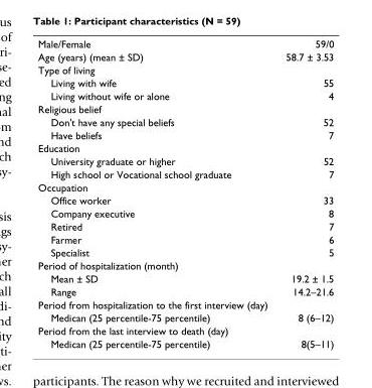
<table><tbody><tr><td>Male/Female</td><td>59/0</td></tr><tr><td>Age (years) (mean ± SD)</td><td>58.7 ± 3.53</td></tr><tr><td colspan="2">Type of living</td></tr><tr><td>Living with wife</td><td>55</td></tr><tr><td>Living without wife or alone</td><td>4</td></tr><tr><td colspan="2">Religious belief</td></tr><tr><td>Don&#x27;t have any special beliefs</td><td>52</td></tr><tr><td>Have beliefs</td><td>7</td></tr><tr><td colspan="2">Education</td></tr><tr><td>University graduate or higher</td><td>52</td></tr><tr><td>High school or Vocational school graduate</td><td>7</td></tr><tr><td colspan="2">Occupation</td></tr><tr><td>Office worker</td><td>33</td></tr><tr><td>Company executive</td><td>8</td></tr><tr><td>Retired</td><td>7</td></tr><tr><td>Farmer</td><td>6</td></tr><tr><td>Specialist</td><td>5</td></tr><tr><td colspan="2">Period of hospitalization (month)</td></tr><tr><td>Mean ± SD</td><td>19.2 ± 1.5</td></tr><tr><td>Range</td><td>14.2–21.6</td></tr><tr><td colspan="2">Period from hospitalization to the first interview (day)</td></tr><tr><td>Medican (25 percentile-75 percentile)</td><td>8 (6–12)</td></tr><tr><td colspan="2">Period from the last interview to death (day)</td></tr><tr><td>Medican (25 percentile-75 percentile)</td><td>8(5–11)</td></tr></tbody></table>